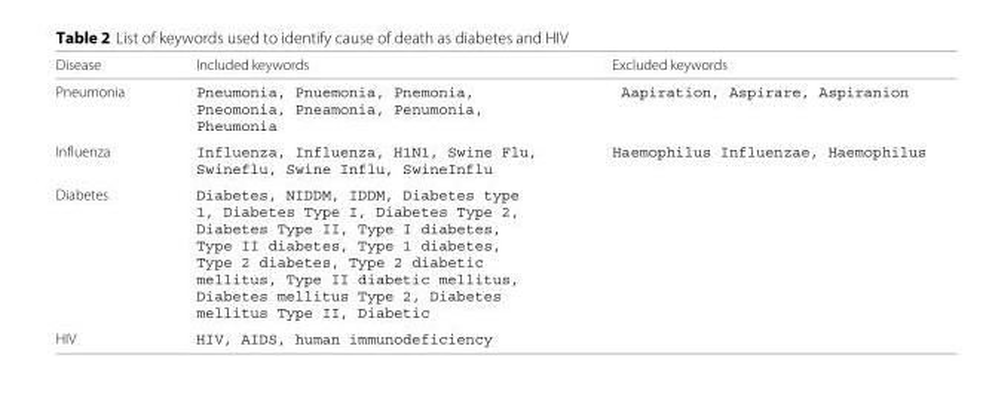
<table><thead><tr><td>Disease</td><td>Included keywords</td><td>Excluded keywords</td></tr></thead><tbody><tr><td>Pneumonia</td><td>Pneumonia, Pnuemonia, Pnemonia, Pneomonia, Pneamonia, Penumonia, Pheumonia</td><td>Aapiration, Aspirare, Aspiranion</td></tr><tr><td>Influenza</td><td>Influenza, Influenza, H1N1, Swine Flu, Swineflu, Swine Influ, SwineInflu</td><td>Haemophilus Influenzae, Haemophilus</td></tr><tr><td>Diabetes</td><td>Diabetes, NIDDM, IDDM, Diabetes type 1, Diabetes Type I, Diabetes Type 2, Diabetes Type II, Type I diabetes, Type II diabetes, Type 1 diabetes, Type 2 diabetes, Type 2 diabetic mellitus, Type II diabetic mellitus, Diabetes mellitus Type 2, Diabetes mellitus Type II, Diabetic</td><td></td></tr><tr><td>HIV</td><td>HIV, AIDS, human immunodeficiency</td><td></td></tr></tbody></table>